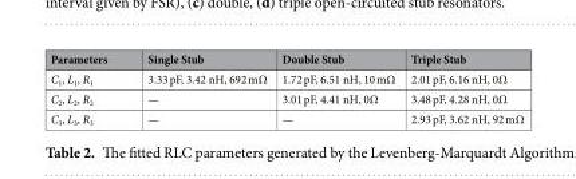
<table><thead><tr><td>Parameters</td><td>Single Stub</td><td>Double Stub</td><td>Triple Stub</td></tr></thead><tbody><tr><td>C<sub>1</sub>, L<sub>1</sub>, R<sub>1</sub></td><td>3.33 pF, 3.42 nH, 692 mΩ</td><td>1.72 pF, 6.51 nH, 10 mΩ</td><td>2.01 pF, 6.16 nH, 0Ω</td></tr><tr><td>C<sub>2</sub>, L<sub>2</sub>, R<sub>2</sub></td><td>—</td><td>3.01 pF, 4.41 nH, 0Ω</td><td>3.48 pF, 4.28 nH, 0Ω</td></tr><tr><td>C<sub>3</sub>, L<sub>3</sub>, R<sub>3</sub></td><td>—</td><td>—</td><td>2.93 pF, 3.62 nH, 92 mΩ</td></tr></tbody></table>